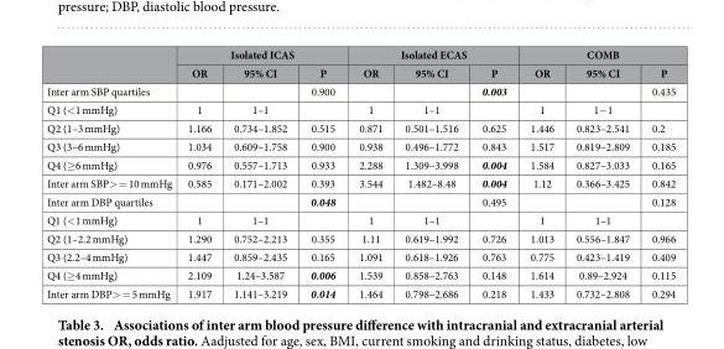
<table><thead><tr><td rowspan="2"></td><td colspan="3">Isolated ICAS</td><td colspan="3">Isolated ECAS</td><td colspan="3">COMB</td></tr><tr><td>OR</td><td>95% CI</td><td>P</td><td>OR</td><td>95% CI</td><td>P</td><td>OR</td><td>95% CI</td><td>P</td></tr></thead><tbody><tr><td>Inter arm SBP quartiles</td><td></td><td></td><td>0.900</td><td></td><td></td><td>0.003</td><td></td><td></td><td>0.435</td></tr><tr><td>Q1 (&lt; 1 mmHg)</td><td>1</td><td>1–1</td><td></td><td>1</td><td>1–1</td><td></td><td>1</td><td>1− 1</td><td></td></tr><tr><td>Q2 (1–3 mmHg)</td><td>1.166</td><td>0.734–1.852</td><td>0.515</td><td>0.871</td><td>0.501–1.516</td><td>0.625</td><td>1.446</td><td>0.823–2.541</td><td>0.2</td></tr><tr><td>Q3 (3–6 mmHg)</td><td>1.034</td><td>0.609–1.758</td><td>0.900</td><td>0.938</td><td>0.496–1.772</td><td>0.843</td><td>1.517</td><td>0.819–2.809</td><td>0.185</td></tr><tr><td>Q4 (≥ 6 mmHg)</td><td>0.976</td><td>0.557–1.713</td><td>0.933</td><td>2.288</td><td>1.309–3.998</td><td>0.004</td><td>1.584</td><td>0.827–3.033</td><td>0.165</td></tr><tr><td>Inter arm SBP&gt; = 10 mmHg</td><td>0.585</td><td>0.171–2.002</td><td>0.393</td><td>3.544</td><td>1.482–8.48</td><td>0.004</td><td>1.12</td><td>0.366–3.425</td><td>0.842</td></tr><tr><td>Inter arm DBP quartiles</td><td></td><td></td><td>0.048</td><td></td><td></td><td>0.495</td><td></td><td></td><td>0.128</td></tr><tr><td>Q1 (&lt; 1 mmHg)</td><td>1</td><td>1–1</td><td></td><td>1</td><td>1–1</td><td></td><td>1</td><td>1–1</td><td></td></tr><tr><td>Q2 (1–2.2 mmHg)</td><td>1.290</td><td>0.752–2.213</td><td>0.355</td><td>1.11</td><td>0.619–1.992</td><td>0.726</td><td>1.013</td><td>0.556–1.847</td><td>0.966</td></tr><tr><td>Q3 (2.2–4 mmHg)</td><td>1.447</td><td>0.859–2.435</td><td>0.165</td><td>1.091</td><td>0.618–1.926</td><td>0.763</td><td>0.775</td><td>0.423–1.419</td><td>0.409</td></tr><tr><td>Q4 (≥ 4 mmHg)</td><td>2.109</td><td>1.24–3.587</td><td>0.006</td><td>1.539</td><td>0.858–2.763</td><td>0.148</td><td>1.614</td><td>0.89–2.924</td><td>0.115</td></tr><tr><td>Inter arm DBP&gt; = 5 mmHg</td><td>1.917</td><td>1.141–3.219</td><td>0.014</td><td>1.464</td><td>0.798–2.686</td><td>0.218</td><td>1.433</td><td>0.732–2.808</td><td>0.294</td></tr></tbody></table>